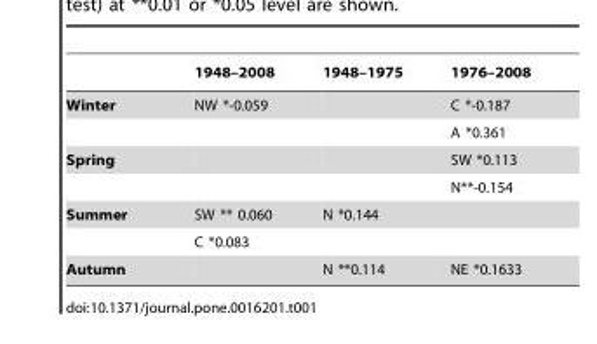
<table><thead><tr><td></td><td>1948–2008</td><td>1948–1975</td><td>1976–2008</td></tr></thead><tbody><tr><td rowspan="2">Winter</td><td>NW *-0.059</td><td></td><td>C *-0.187</td></tr><tr><td></td><td></td><td>A *0.361</td></tr><tr><td rowspan="2">Spring</td><td></td><td></td><td>SW *0.113</td></tr><tr><td></td><td></td><td>N**-0.154</td></tr><tr><td rowspan="2">Summer</td><td>SW ** 0.060</td><td>N *0.144</td><td></td></tr><tr><td>C *0.083</td><td></td><td></td></tr><tr><td>Autumn</td><td></td><td>N **0.114</td><td>NE *0.1633</td></tr></tbody></table>